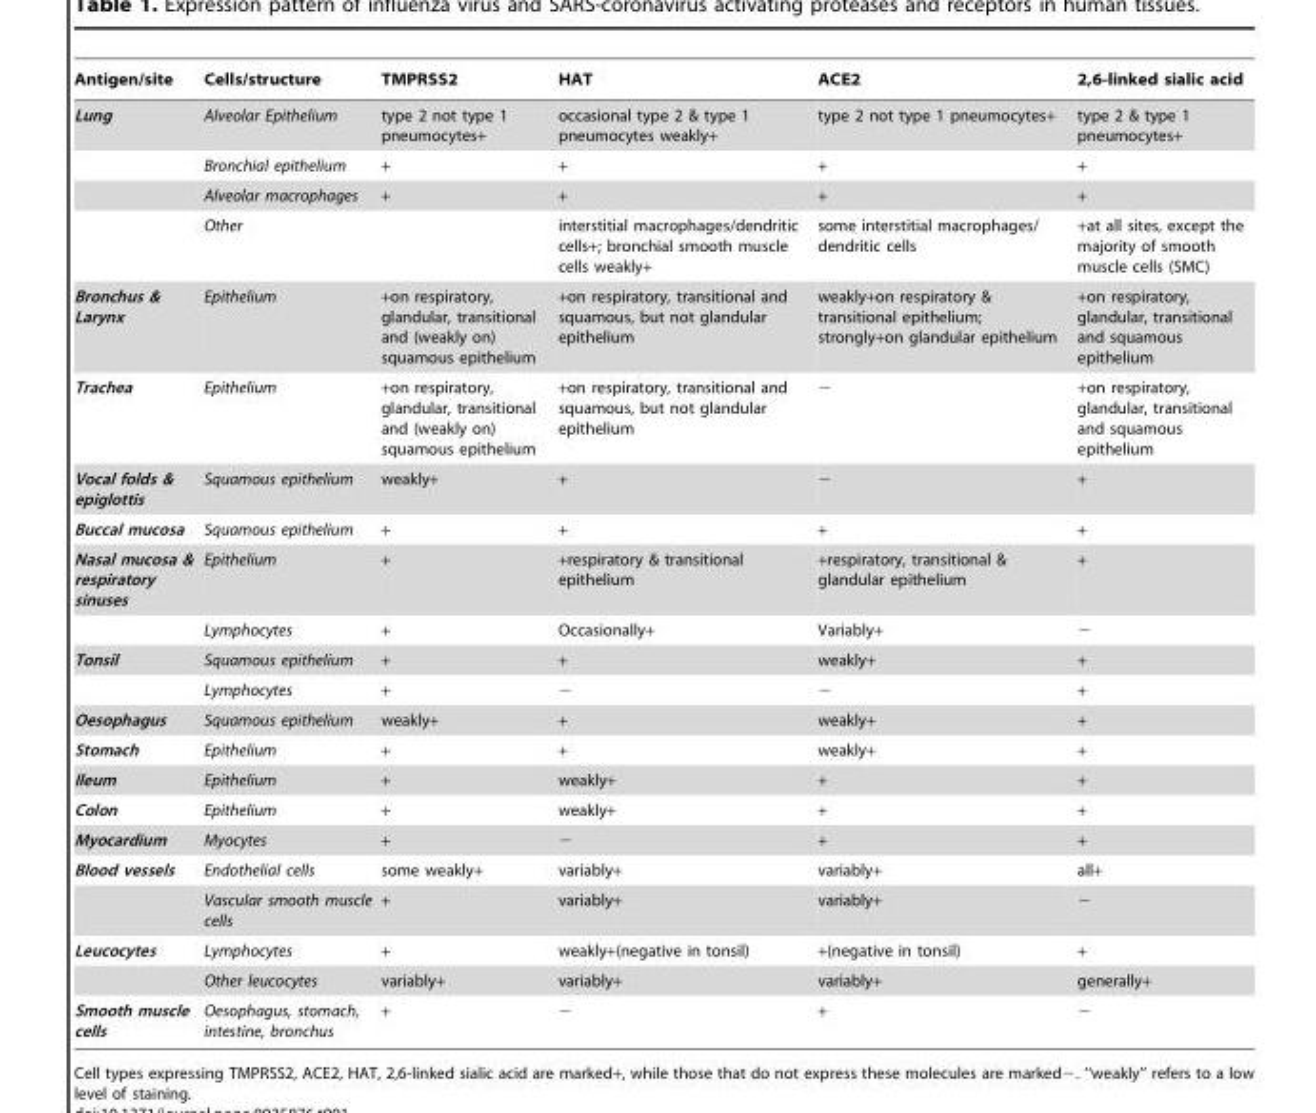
<table><thead><tr><td>Antigen/site</td><td>Cells/structure</td><td>TMPRSS2</td><td>HAT</td><td>ACE2</td><td>2,6-linked sialic acid</td></tr></thead><tbody><tr><td rowspan="4">Lung</td><td>Alveolar Epithelium</td><td>type 2 not type 1 pneumocytes+</td><td>occasional type 2 &amp; type 1 pneumocytes weakly+</td><td>type 2 not type 1 pneumocytes+</td><td>type 2 &amp; type 1 pneumocytes+</td></tr><tr><td>Bronchial epithelium</td><td>+</td><td>+</td><td>+</td><td>+</td></tr><tr><td>Alveolar macrophages</td><td>+</td><td>+</td><td>+</td><td>+</td></tr><tr><td>Other</td><td></td><td>interstitial macrophages/dendritic cells+; bronchial smooth muscle cells weakly+</td><td>some interstitial macrophages/ dendritic cells</td><td>+at all sites, except the majority of smooth muscle cells (SMC)</td></tr><tr><td>Bronchus &amp; Larynx</td><td>Epithelium</td><td>+on respiratory, glandular, transitional and (weakly on) squamous epithelium</td><td>+on respiratory, transitional and squamous, but not glandular epithelium</td><td>weakly+on respiratory &amp; transitional epithelium; strongly+on glandular epithelium</td><td>+on respiratory, glandular, transitional and squamous epithelium</td></tr><tr><td>Trachea</td><td>Epithelium</td><td>+on respiratory, glandular, transitional and (weakly on) squamous epithelium</td><td>+on respiratory, transitional and squamous, but not glandular epithelium</td><td>−</td><td>+on respiratory, glandular, transitional and squamous epithelium</td></tr><tr><td>Vocal folds &amp; epiglottis</td><td>Squamous epithelium</td><td>weakly+</td><td>+</td><td>−</td><td>+</td></tr><tr><td>Buccal mucosa</td><td>Squamous epithelium</td><td>+</td><td>+</td><td>+</td><td>+</td></tr><tr><td rowspan="2">Nasal mucosa &amp; respiratory sinuses</td><td>Epithelium</td><td>+</td><td>+respiratory &amp; transitional epithelium</td><td>+respiratory, transitional &amp; glandular epithelium</td><td>+</td></tr><tr><td>Lymphocytes</td><td>+</td><td>Occasionally+</td><td>Variably+</td><td>−</td></tr><tr><td rowspan="2">Tonsil</td><td>Squamous epithelium</td><td>+</td><td>+</td><td>weakly+</td><td>+</td></tr><tr><td>Lymphocytes</td><td>+</td><td>−</td><td>−</td><td>+</td></tr><tr><td>Oesophagus</td><td>Squamous epithelium</td><td>weakly+</td><td>+</td><td>weakly+</td><td>+</td></tr><tr><td>Stomach</td><td>Epithelium</td><td>+</td><td>+</td><td>weakly+</td><td>+</td></tr><tr><td>Ileum</td><td>Epithelium</td><td>+</td><td>weakly+</td><td>+</td><td>+</td></tr><tr><td>Colon</td><td>Epithelium</td><td>+</td><td>weakly+</td><td>+</td><td>+</td></tr><tr><td>Myocardium</td><td>Myocytes</td><td>+</td><td>−</td><td>+</td><td>+</td></tr><tr><td rowspan="2">Blood vessels</td><td>Endothelial cells</td><td>some weakly+</td><td>variably+</td><td>variably+</td><td>all+</td></tr><tr><td>Vascular smooth muscle cells</td><td>+</td><td>variably+</td><td>variably+</td><td>−</td></tr><tr><td rowspan="2">Leucocytes</td><td>Lymphocytes</td><td>+</td><td>weakly+(negative in tonsil)</td><td>+(negative in tonsil)</td><td>+</td></tr><tr><td>Other leucocytes</td><td>variably+</td><td>variably+</td><td>variably+</td><td>generally+</td></tr><tr><td>Smooth muscle cells</td><td>Oesophagus, stomach, intestine, bronchus</td><td>+</td><td>−</td><td>+</td><td>−</td></tr></tbody></table>